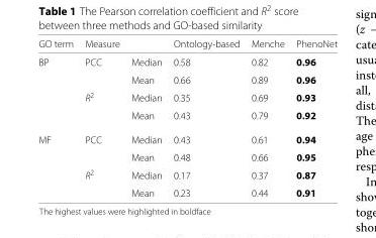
<table><thead><tr><td>GO term</td><td>Measure</td><td></td><td>Ontology-based</td><td>Menche</td><td>PhenoNet</td></tr></thead><tbody><tr><td rowspan="4">BP</td><td>PCC</td><td>Median</td><td>0.58</td><td>0.82</td><td>0.96</td></tr><tr><td></td><td>Mean</td><td>0.66</td><td>0.89</td><td>0.96</td></tr><tr><td>R<sup>2</sup></td><td>Median</td><td>0.35</td><td>0.69</td><td>0.93</td></tr><tr><td></td><td>Mean</td><td>0.43</td><td>0.79</td><td>0.92</td></tr><tr><td rowspan="4">MF</td><td>PCC</td><td>Median</td><td>0.43</td><td>0.61</td><td>0.94</td></tr><tr><td></td><td>Mean</td><td>0.48</td><td>0.66</td><td>0.95</td></tr><tr><td>R<sup>2</sup></td><td>Median</td><td>0.17</td><td>0.37</td><td>0.87</td></tr><tr><td></td><td>Mean</td><td>0.23</td><td>0.44</td><td>0.91</td></tr></tbody></table>